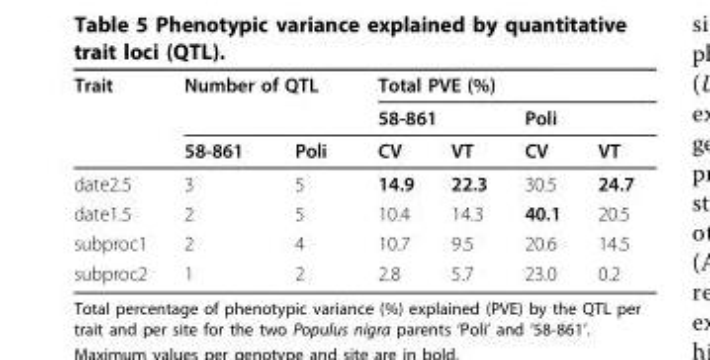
<table><thead><tr><td rowspan="3">Trait</td><td colspan="2">Number of QTL</td><td colspan="4">Total PVE (%)</td></tr><tr><td rowspan="2">58-861</td><td rowspan="2">Poli</td><td colspan="2">58-861</td><td colspan="2">Poli</td></tr><tr><td>CV</td><td>VT</td><td>CV</td><td>VT</td></tr></thead><tbody><tr><td>date2.5</td><td>3</td><td>5</td><td>14.9</td><td>22.3</td><td>30.5</td><td>24.7</td></tr><tr><td>date1.5</td><td>2</td><td>5</td><td>10.4</td><td>14.3</td><td>40.1</td><td>20.5</td></tr><tr><td>subproc1</td><td>2</td><td>4</td><td>10.7</td><td>9.5</td><td>20.6</td><td>14.5</td></tr><tr><td>subproc2</td><td>1</td><td>2</td><td>2.8</td><td>5.7</td><td>23.0</td><td>0.2</td></tr></tbody></table>